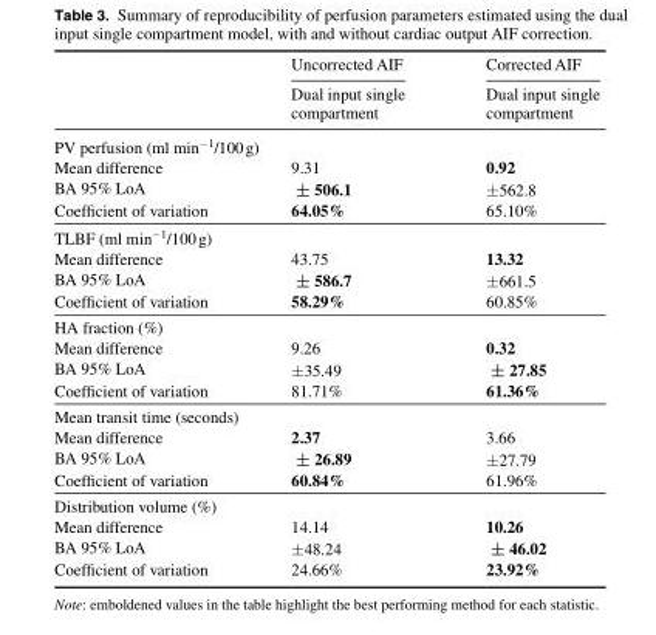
<table><thead><tr><td rowspan="2"></td><td rowspan="2">Uncorrected AIF Dual input single compartment</td><td rowspan="2">Corrected AIF Dual input single compartment</td></tr><tr></tr></thead><tbody><tr><td colspan="3">PV perfusion (ml min<sup>−1</sup>/100 g)</td></tr><tr><td>Mean difference</td><td>9.31</td><td>0.92</td></tr><tr><td>BA 95% LoA</td><td>± 506.1</td><td>±562.8</td></tr><tr><td>Coefficient of variation</td><td>64.05%</td><td>65.10%</td></tr><tr><td colspan="3">TLBF (ml min<sup>−1</sup>/100 g)</td></tr><tr><td>Mean difference</td><td>43.75</td><td>13.32</td></tr><tr><td>BA 95% LoA</td><td>± 586.7</td><td>±661.5</td></tr><tr><td>Coefficient of variation</td><td>58.29%</td><td>60.85%</td></tr><tr><td colspan="3">HA fraction (%)</td></tr><tr><td>Mean difference</td><td>9.26</td><td>0.32</td></tr><tr><td>BA 95% LoA</td><td>±35.49</td><td>± 27.85</td></tr><tr><td>Coefficient of variation</td><td>81.71%</td><td>61.36%</td></tr><tr><td colspan="3">Mean transit time (seconds)</td></tr><tr><td>Mean difference</td><td>2.37</td><td>3.66</td></tr><tr><td>BA 95% LoA</td><td>± 26.89</td><td>±27.79</td></tr><tr><td>Coefficient of variation</td><td>60.84%</td><td>61.96%</td></tr><tr><td colspan="3">Distribution volume (%)</td></tr><tr><td>Mean difference</td><td>14.14</td><td>10.26</td></tr><tr><td>BA 95% LoA</td><td>±48.24</td><td>± 46.02</td></tr><tr><td>Coefficient of variation</td><td>24.66%</td><td>23.92%</td></tr></tbody></table>